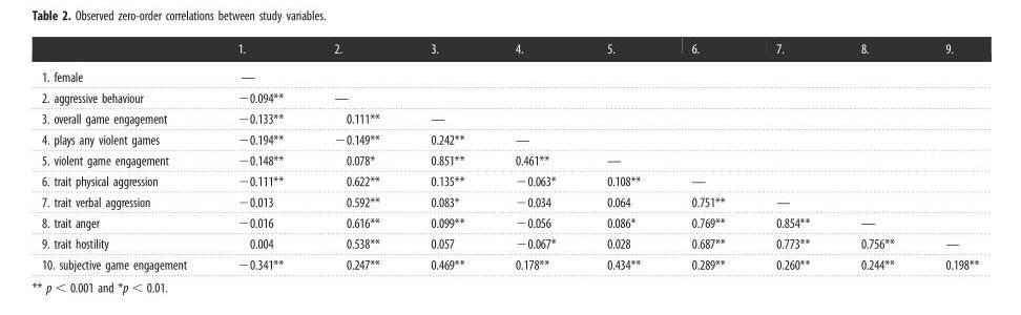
<table><thead><tr><td></td><td>1.</td><td>2.</td><td>3.</td><td>4.</td><td>5.</td><td>6.</td><td>7.</td><td>8.</td><td>9.</td></tr></thead><tbody><tr><td>1. female</td><td>—</td><td></td><td></td><td></td><td></td><td></td><td></td><td></td><td></td></tr><tr><td>2. aggressive behaviour</td><td>−0.094**</td><td>—</td><td></td><td></td><td></td><td></td><td></td><td></td><td></td></tr><tr><td>3. overall game engagement</td><td>−0.133**</td><td>0.111**</td><td>—</td><td></td><td></td><td></td><td></td><td></td><td></td></tr><tr><td>4. plays any violent games</td><td>−0.194**</td><td>−0.149**</td><td>0.242**</td><td>—</td><td></td><td></td><td></td><td></td><td></td></tr><tr><td>5. violent game engagement</td><td>−0.148**</td><td>0.078*</td><td>0.851**</td><td>0.461**</td><td>—</td><td></td><td></td><td></td><td></td></tr><tr><td>6. trait physical aggression</td><td>−0.111**</td><td>0.622**</td><td>0.135**</td><td>−0.063*</td><td>0.108**</td><td>—</td><td></td><td></td><td></td></tr><tr><td>7. trait verbal aggression</td><td>−0.013</td><td>0.592**</td><td>0.083*</td><td>−0.034</td><td>0.064</td><td>0.751**</td><td>—</td><td></td><td></td></tr><tr><td>8. trait anger</td><td>−0.016</td><td>0.616**</td><td>0.099**</td><td>−0.056</td><td>0.086*</td><td>0.769**</td><td>0.854**</td><td>—</td><td></td></tr><tr><td>9. trait hostility</td><td>0.004</td><td>0.538**</td><td>0.057</td><td>−0.067*</td><td>0.028</td><td>0.687**</td><td>0.773**</td><td>0.756**</td><td>—</td></tr><tr><td>10. subjective game engagement</td><td>−0.341**</td><td>0.247**</td><td>0.469**</td><td>0.178**</td><td>0.434**</td><td>0.289**</td><td>0.260**</td><td>0.244**</td><td>0.198**</td></tr></tbody></table>